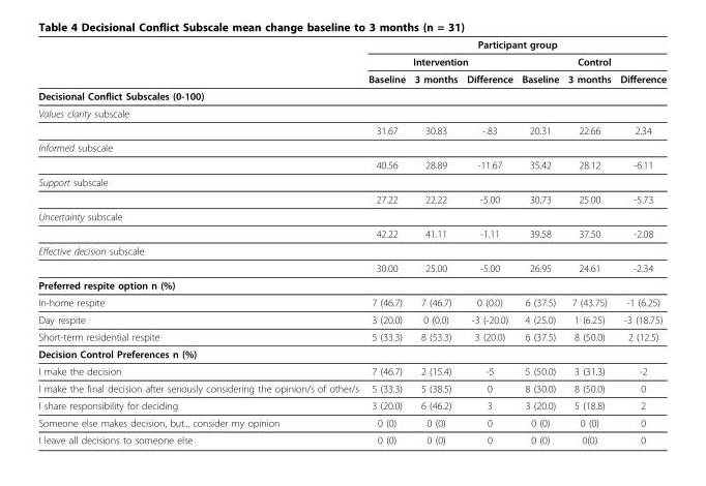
<table><thead><tr><td rowspan="3"></td><td colspan="6">Participant group</td></tr><tr><td colspan="3">Intervention</td><td colspan="3">Control</td></tr><tr><td>Baseline</td><td>3 months</td><td>Difference</td><td>Baseline</td><td>3 months</td><td>Difference</td></tr></thead><tbody><tr><td colspan="7">Decisional Conflict Subscales (0-100)</td></tr><tr><td colspan="7">Values clarity subscale</td></tr><tr><td></td><td>31.67</td><td>30.83</td><td>-.83</td><td>20.31</td><td>22.66</td><td>2.34</td></tr><tr><td colspan="7">Informed subscale</td></tr><tr><td></td><td>40.56</td><td>28.89</td><td>-11.67</td><td>35.42</td><td>28.12</td><td>-6.11</td></tr><tr><td colspan="7">Support subscale</td></tr><tr><td></td><td>27.22</td><td>22.22</td><td>-5.00</td><td>30.73</td><td>25.00</td><td>-5.73</td></tr><tr><td colspan="7">Uncertainty subscale</td></tr><tr><td></td><td>42.22</td><td>41.11</td><td>-1.11</td><td>39.58</td><td>37.50</td><td>-2.08</td></tr><tr><td colspan="7">Effective decision subscale</td></tr><tr><td></td><td>30.00</td><td>25.00</td><td>-5.00</td><td>26.95</td><td>24.61</td><td>-2.34</td></tr><tr><td colspan="7">Preferred respite option n (%)</td></tr><tr><td>In-home respite</td><td>7 (46.7)</td><td>7 (46.7)</td><td>0 (0.0)</td><td>6 (37.5)</td><td>7 (43.75)</td><td>-1 (6.25)</td></tr><tr><td>Day respite</td><td>3 (20.0)</td><td>0 (0.0)</td><td>-3 (-20.0)</td><td>4 (25.0)</td><td>1 (6.25)</td><td>-3 (18.75)</td></tr><tr><td>Short-term residential respite</td><td>5 (33.3)</td><td>8 (53.3)</td><td>3 (20.0)</td><td>6 (37.5)</td><td>8 (50.0)</td><td>2 (12.5)</td></tr><tr><td colspan="7">Decision Control Preferences n (%)</td></tr><tr><td>I make the decision</td><td>7 (46.7)</td><td>2 (15.4)</td><td>-5</td><td>5 (50.0)</td><td>3 (31.3)</td><td>-2</td></tr><tr><td>I make the final decision after seriously considering the opinion/s of other/s</td><td>5 (33.3)</td><td>5 (38.5)</td><td>0</td><td>8 (30.0)</td><td>8 (50.0)</td><td>0</td></tr><tr><td>I share responsibility for deciding</td><td>3 (20.0)</td><td>6 (46.2)</td><td>3</td><td>3 (20.0)</td><td>5 (18.8)</td><td>2</td></tr><tr><td>Someone else makes decision, but... consider my opinion</td><td>0 (0)</td><td>0 (0)</td><td>0</td><td>0 (0)</td><td>0 (0)</td><td>0</td></tr><tr><td>I leave all decisions to someone else</td><td>0 (0)</td><td>0 (0)</td><td>0</td><td>0 (0)</td><td>0(0)</td><td>0</td></tr></tbody></table>